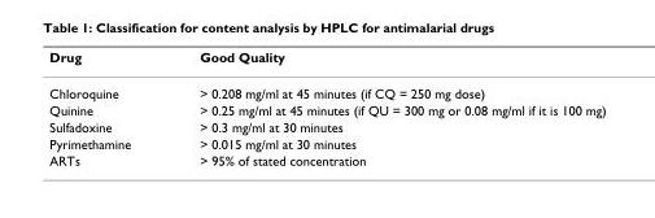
<table><thead><tr><td>Drug</td><td>Good Quality</td></tr></thead><tbody><tr><td>Chloroquine</td><td>&gt; 0.208 mg/ml at 45 minutes (if CQ = 250 mg dose)</td></tr><tr><td>Quinine</td><td>&gt; 0.25 mg/ml at 45 minutes (if QU = 300 mg or 0.08 mg/ml if it is 100 mg)</td></tr><tr><td>Sulfadoxine</td><td>&gt; 0.3 mg/ml at 30 minutes</td></tr><tr><td>Pyrimethamine</td><td>&gt; 0.015 mg/ml at 30 minutes</td></tr><tr><td>ARTs</td><td>&gt; 95% of stated concentration</td></tr></tbody></table>